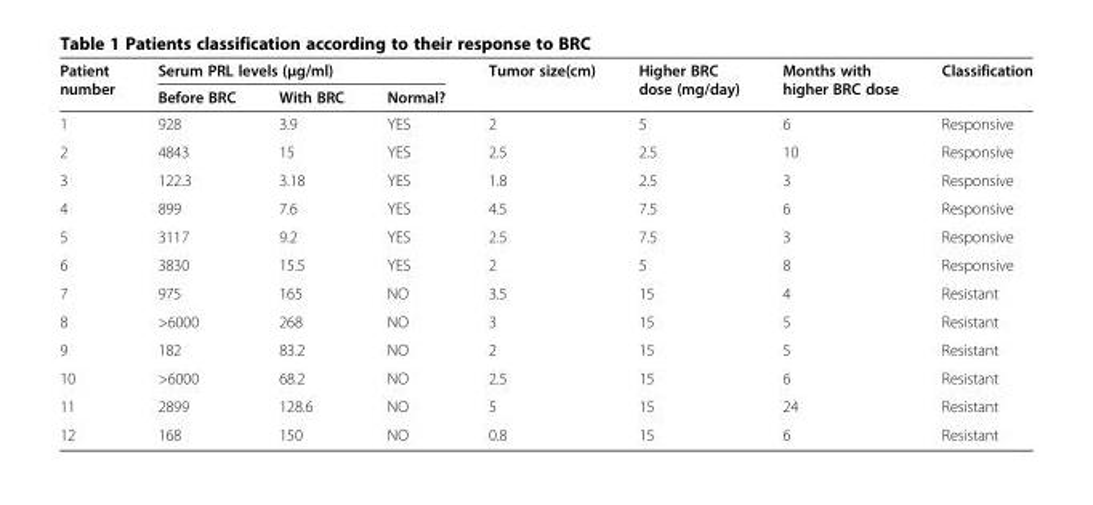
<table><thead><tr><td rowspan="2">Patient number</td><td colspan="3">Serum PRL levels (μg/ml)</td><td rowspan="2">Tumor size(cm)</td><td rowspan="2">Higher BRC dose (mg/day)</td><td rowspan="2">Months with higher BRC dose</td><td rowspan="2">Classification</td></tr><tr><td>Before BRC</td><td>With BRC</td><td>Normal?</td></tr></thead><tbody><tr><td>1</td><td>928</td><td>3.9</td><td>YES</td><td>2</td><td>5</td><td>6</td><td>Responsive</td></tr><tr><td>2</td><td>4843</td><td>15</td><td>YES</td><td>2.5</td><td>2.5</td><td>10</td><td>Responsive</td></tr><tr><td>3</td><td>122.3</td><td>3.18</td><td>YES</td><td>1.8</td><td>2.5</td><td>3</td><td>Responsive</td></tr><tr><td>4</td><td>899</td><td>7.6</td><td>YES</td><td>4.5</td><td>7.5</td><td>6</td><td>Responsive</td></tr><tr><td>5</td><td>3117</td><td>9.2</td><td>YES</td><td>2.5</td><td>7.5</td><td>3</td><td>Responsive</td></tr><tr><td>6</td><td>3830</td><td>15.5</td><td>YES</td><td>2</td><td>5</td><td>8</td><td>Responsive</td></tr><tr><td>7</td><td>975</td><td>165</td><td>NO</td><td>3.5</td><td>15</td><td>4</td><td>Resistant</td></tr><tr><td>8</td><td>&gt;6000</td><td>268</td><td>NO</td><td>3</td><td>15</td><td>5</td><td>Resistant</td></tr><tr><td>9</td><td>182</td><td>83.2</td><td>NO</td><td>2</td><td>15</td><td>5</td><td>Resistant</td></tr><tr><td>10</td><td>&gt;6000</td><td>68.2</td><td>NO</td><td>2.5</td><td>15</td><td>6</td><td>Resistant</td></tr><tr><td>11</td><td>2899</td><td>128.6</td><td>NO</td><td>5</td><td>15</td><td>24</td><td>Resistant</td></tr><tr><td>12</td><td>168</td><td>150</td><td>NO</td><td>0.8</td><td>15</td><td>6</td><td>Resistant</td></tr></tbody></table>